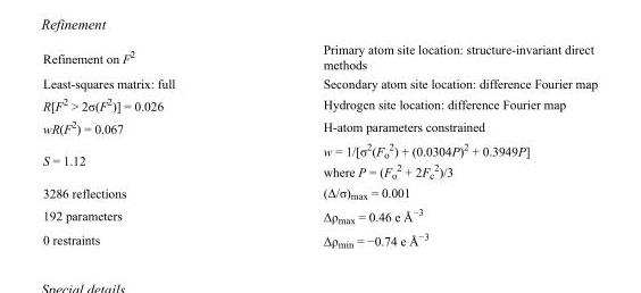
<table><tbody><tr><td>Refinement on F<sup>2</sup></td><td>Primary atom site location: structure-invariant direct methods</td></tr><tr><td>Least-squares matrix: full</td><td>Secondary atom site location: difference Fourier map</td></tr><tr><td>R[F<sup>2</sup> &gt; 2σ(F<sup>2</sup>)] = 0.026</td><td>Hydrogen site location: difference Fourier map</td></tr><tr><td>wR(F<sup>2</sup>) = 0.067</td><td>H-atom parameters constrained</td></tr><tr><td>S = 1.12</td><td>w = 1/[σ<sup>2</sup>(F<sub>o</sub> <sup>2</sup>) + (0.0304P)<sup>2</sup> + 0.3949P] where P = (F<sub>o</sub> <sup>2</sup> + 2F<sub>c</sub> <sup>2</sup>)/3</td></tr><tr><td>3286 reflections</td><td>(Δ/σ)<sub>max</sub> = 0.001</td></tr><tr><td>192 parameters</td><td>Δρ<sub>max</sub> = 0.46 e Å<sup>−3</sup></td></tr><tr><td>0 restraints</td><td>Δρ<sub>min</sub> = −0.74 e Å<sup>−3</sup></td></tr></tbody></table>